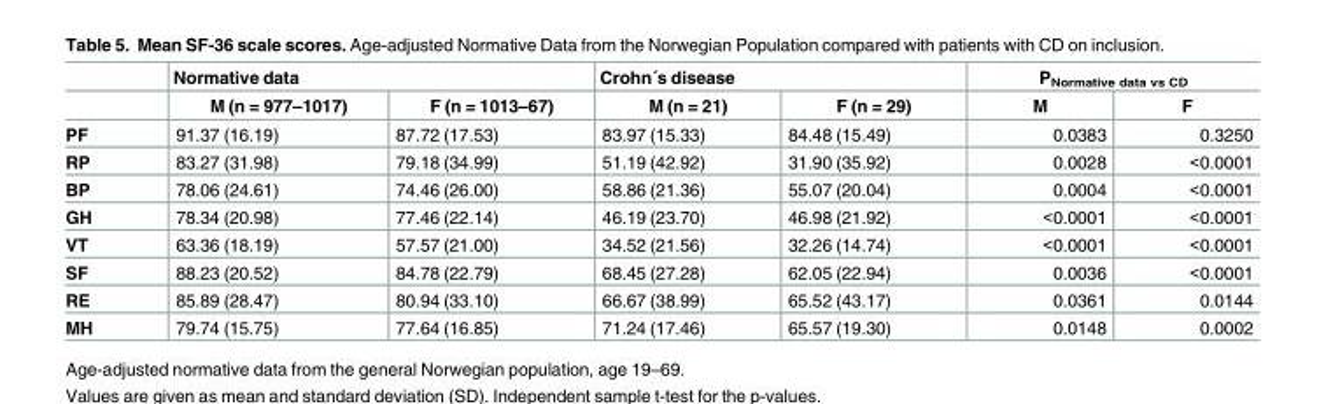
<table><thead><tr><td rowspan="2"></td><td colspan="2">Normative data</td><td colspan="2">Crohn´s disease</td><td colspan="2">P<sub>Normative data vs CD</sub></td></tr><tr><td>M (n = 977–1017)</td><td>F (n = 1013–67)</td><td>M (n = 21)</td><td>F (n = 29)</td><td>M</td><td>F</td></tr></thead><tbody><tr><td>PF</td><td>91.37 (16.19)</td><td>87.72 (17.53)</td><td>83.97 (15.33)</td><td>84.48 (15.49)</td><td>0.0383</td><td>0.3250</td></tr><tr><td>RP</td><td>83.27 (31.98)</td><td>79.18 (34.99)</td><td>51.19 (42.92)</td><td>31.90 (35.92)</td><td>0.0028</td><td>&lt;0.0001</td></tr><tr><td>BP</td><td>78.06 (24.61)</td><td>74.46 (26.00)</td><td>58.86 (21.36)</td><td>55.07 (20.04)</td><td>0.0004</td><td>&lt;0.0001</td></tr><tr><td>GH</td><td>78.34 (20.98)</td><td>77.46 (22.14)</td><td>46.19 (23.70)</td><td>46.98 (21.92)</td><td>&lt;0.0001</td><td>&lt;0.0001</td></tr><tr><td>VT</td><td>63.36 (18.19)</td><td>57.57 (21.00)</td><td>34.52 (21.56)</td><td>32.26 (14.74)</td><td>&lt;0.0001</td><td>&lt;0.0001</td></tr><tr><td>SF</td><td>88.23 (20.52)</td><td>84.78 (22.79)</td><td>68.45 (27.28)</td><td>62.05 (22.94)</td><td>0.0036</td><td>&lt;0.0001</td></tr><tr><td>RE</td><td>85.89 (28.47)</td><td>80.94 (33.10)</td><td>66.67 (38.99)</td><td>65.52 (43.17)</td><td>0.0361</td><td>0.0144</td></tr><tr><td>MH</td><td>79.74 (15.75)</td><td>77.64 (16.85)</td><td>71.24 (17.46)</td><td>65.57 (19.30)</td><td>0.0148</td><td>0.0002</td></tr></tbody></table>